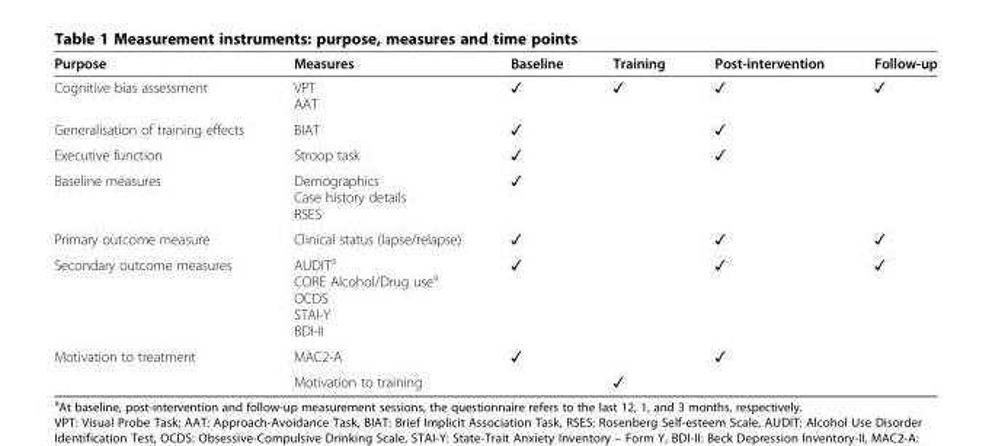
<table><thead><tr><td>Purpose</td><td>Measures</td><td>Baseline</td><td>Training</td><td>Post-intervention</td><td>Follow-up</td></tr></thead><tbody><tr><td>Cognitive bias assessment</td><td>VPT AAT</td><td>✓</td><td>✓</td><td>✓</td><td>✓</td></tr><tr><td>Generalisation of training effects</td><td>BIAT</td><td>✓</td><td></td><td>✓</td><td></td></tr><tr><td>Executive function</td><td>Stroop task</td><td>✓</td><td></td><td>✓</td><td></td></tr><tr><td>Baseline measures</td><td>Demographics Case history details RSES</td><td>✓</td><td></td><td></td><td></td></tr><tr><td>Primary outcome measure</td><td>Clinical status (lapse/relapse)</td><td>✓</td><td></td><td>✓</td><td>✓</td></tr><tr><td>Secondary outcome measures</td><td>AUDIT<sup>a</sup> CORE Alcohol/Drug use<sup>a</sup> OCDS STAI-Y BDI-II</td><td>✓</td><td></td><td>✓</td><td>✓</td></tr><tr><td rowspan="2">Motivation to treatment</td><td>MAC2-A</td><td>✓</td><td></td><td>✓</td><td></td></tr><tr><td>Motivation to training</td><td></td><td>✓</td><td></td><td></td></tr></tbody></table>